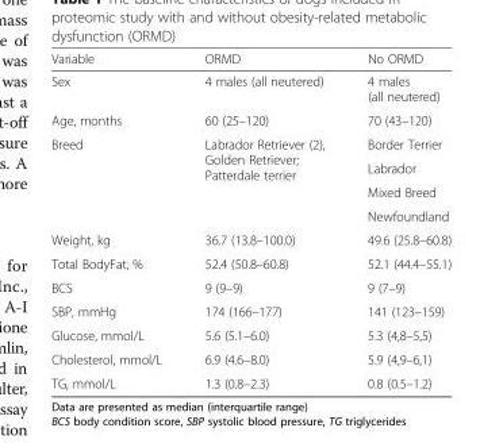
<table><thead><tr><td>Variable</td><td>ORMD</td><td>No ORMD</td></tr></thead><tbody><tr><td>Sex</td><td>4 males (all neutered)</td><td>4 males (all neutered)</td></tr><tr><td>Age, months</td><td>60 (25–120)</td><td>70 (43–120)</td></tr><tr><td rowspan="4">Breed</td><td rowspan="4">Labrador Retriever (2), Golden Retriever; Patterdale terrier</td><td>Border Terrier</td></tr><tr><td>Labrador</td></tr><tr><td>Mixed Breed</td></tr><tr><td>Newfoundland</td></tr><tr><td>Weight, kg</td><td>36.7 (13.8–100.0)</td><td>49.6 (25.8–60.8)</td></tr><tr><td>Total BodyFat, %</td><td>52.4 (50.8–60.8)</td><td>52.1 (44.4–55.1)</td></tr><tr><td>BCS</td><td>9 (9–9)</td><td>9 (7–9)</td></tr><tr><td>SBP, mmHg</td><td>174 (166–177)</td><td>141 (123–159)</td></tr><tr><td>Glucose, mmol/L</td><td>5.6 (5.1–6.0)</td><td>5.3 (4,8–5,5)</td></tr><tr><td>Cholesterol, mmol/L</td><td>6.9 (4.6–8.0)</td><td>5.9 (4,9–6,1)</td></tr><tr><td>TG, mmol/L</td><td>1.3 (0.8–2.3)</td><td>0.8 (0.5–1.2)</td></tr></tbody></table>